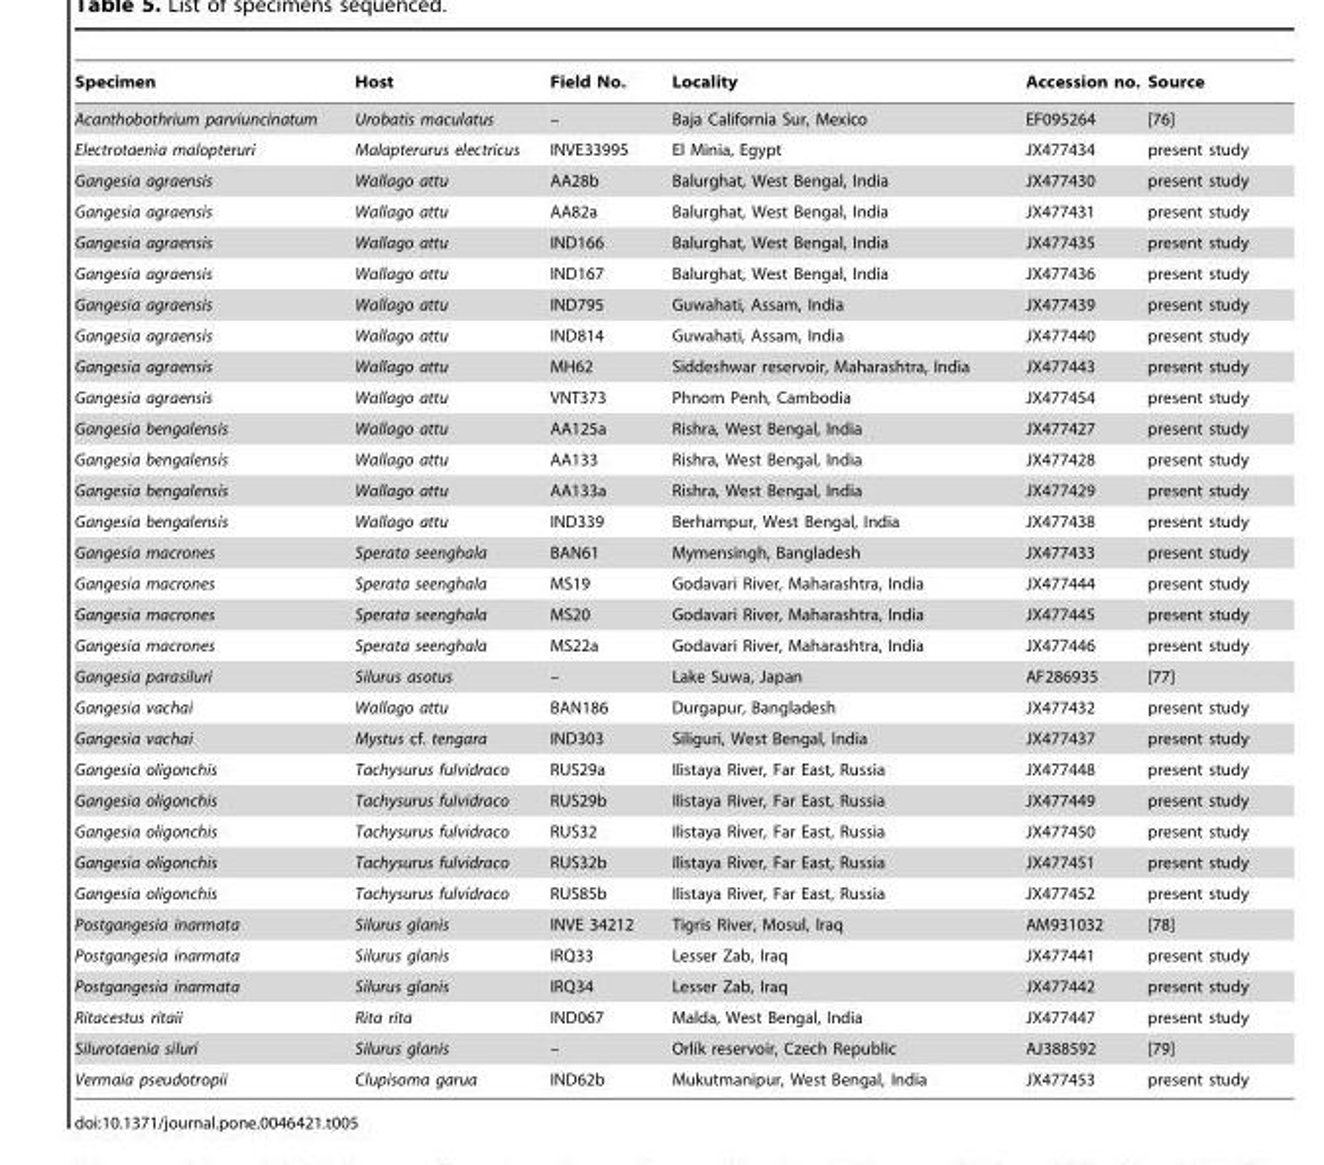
<table><thead><tr><td>Specimen</td><td>Host</td><td>Field No.</td><td>Locality</td><td>Accession no.</td><td>Source</td></tr></thead><tbody><tr><td>Acanthobothrium parviuncinatum</td><td>Urobatis maculatus</td><td>–</td><td>Baja California Sur, Mexico</td><td>EF095264</td><td>[76]</td></tr><tr><td>Electrotaenia malopteruri</td><td>Malapterurus electricus</td><td>INVE33995</td><td>El Minia, Egypt</td><td>JX477434</td><td>present study</td></tr><tr><td>Gangesia agraensis</td><td>Wallago attu</td><td>AA28b</td><td>Balurghat, West Bengal, India</td><td>JX477430</td><td>present study</td></tr><tr><td>Gangesia agraensis</td><td>Wallago attu</td><td>AA82a</td><td>Balurghat, West Bengal, India</td><td>JX477431</td><td>present study</td></tr><tr><td>Gangesia agraensis</td><td>Wallago attu</td><td>IND166</td><td>Balurghat, West Bengal, India</td><td>JX477435</td><td>present study</td></tr><tr><td>Gangesia agraensis</td><td>Wallago attu</td><td>IND167</td><td>Balurghat, West Bengal, India</td><td>JX477436</td><td>present study</td></tr><tr><td>Gangesia agraensis</td><td>Wallago attu</td><td>IND795</td><td>Guwahati, Assam, India</td><td>JX477439</td><td>present study</td></tr><tr><td>Gangesia agraensis</td><td>Wallago attu</td><td>IND814</td><td>Guwahati, Assam, India</td><td>JX477440</td><td>present study</td></tr><tr><td>Gangesia agraensis</td><td>Wallago attu</td><td>MH62</td><td>Siddeshwar reservoir, Maharashtra, India</td><td>JX477443</td><td>present study</td></tr><tr><td>Gangesia agraensis</td><td>Wallago attu</td><td>VNT373</td><td>Phnom Penh, Cambodia</td><td>JX477454</td><td>present study</td></tr><tr><td>Gangesia bengalensis</td><td>Wallago attu</td><td>AA125a</td><td>Rishra, West Bengal, India</td><td>JX477427</td><td>present study</td></tr><tr><td>Gangesia bengalensis</td><td>Wallago attu</td><td>AA133</td><td>Rishra, West Bengal, India</td><td>JX477428</td><td>present study</td></tr><tr><td>Gangesia bengalensis</td><td>Wallago attu</td><td>AA133a</td><td>Rishra, West Bengal, India</td><td>JX477429</td><td>present study</td></tr><tr><td>Gangesia bengalensis</td><td>Wallago attu</td><td>IND339</td><td>Berhampur, West Bengal, India</td><td>JX477438</td><td>present study</td></tr><tr><td>Gangesia macrones</td><td>Sperata seenghala</td><td>BAN61</td><td>Mymensingh, Bangladesh</td><td>JX477433</td><td>present study</td></tr><tr><td>Gangesia macrones</td><td>Sperata seenghala</td><td>MS19</td><td>Godavari River, Maharashtra, India</td><td>JX477444</td><td>present study</td></tr><tr><td>Gangesia macrones</td><td>Sperata seenghala</td><td>MS20</td><td>Godavari River, Maharashtra, India</td><td>JX477445</td><td>present study</td></tr><tr><td>Gangesia macrones</td><td>Sperata seenghala</td><td>MS22a</td><td>Godavari River, Maharashtra, India</td><td>JX477446</td><td>present study</td></tr><tr><td>Gangesia parasiluri</td><td>Silurus asotus</td><td>–</td><td>Lake Suwa, Japan</td><td>AF286935</td><td>[77]</td></tr><tr><td>Gangesia vachai</td><td>Wallago attu</td><td>BAN186</td><td>Durgapur, Bangladesh</td><td>JX477432</td><td>present study</td></tr><tr><td>Gangesia vachai</td><td>Mystus cf. tengara</td><td>IND303</td><td>Siliguri, West Bengal, India</td><td>JX477437</td><td>present study</td></tr><tr><td>Gangesia oligonchis</td><td>Tachysurus fulvidraco</td><td>RUS29a</td><td>Ilistaya River, Far East, Russia</td><td>JX477448</td><td>present study</td></tr><tr><td>Gangesia oligonchis</td><td>Tachysurus fulvidraco</td><td>RUS29b</td><td>Ilistaya River, Far East, Russia</td><td>JX477449</td><td>present study</td></tr><tr><td>Gangesia oligonchis</td><td>Tachysurus fulvidraco</td><td>RUS32</td><td>Ilistaya River, Far East, Russia</td><td>JX477450</td><td>present study</td></tr><tr><td>Gangesia oligonchis</td><td>Tachysurus fulvidraco</td><td>RUS32b</td><td>Ilistaya River, Far East, Russia</td><td>JX477451</td><td>present study</td></tr><tr><td>Gangesia oligonchis</td><td>Tachysurus fulvidraco</td><td>RUS85b</td><td>Ilistaya River, Far East, Russia</td><td>JX477452</td><td>present study</td></tr><tr><td>Postgangesia inarmata</td><td>Silurus glanis</td><td>INVE 34212</td><td>Tigris River, Mosul, Iraq</td><td>AM931032</td><td>[78]</td></tr><tr><td>Postgangesia inarmata</td><td>Silurus glanis</td><td>IRQ33</td><td>Lesser Zab, Iraq</td><td>JX477441</td><td>present study</td></tr><tr><td>Postgangesia inarmata</td><td>Silurus glanis</td><td>IRQ34</td><td>Lesser Zab, Iraq</td><td>JX477442</td><td>present study</td></tr><tr><td>Ritacestus ritaii</td><td>Rita rita</td><td>IND067</td><td>Malda, West Bengal, India</td><td>JX477447</td><td>present study</td></tr><tr><td>Silurotaenia siluri</td><td>Silurus glanis</td><td>–</td><td>Orlı´k reservoir, Czech Republic</td><td>AJ388592</td><td>[79]</td></tr><tr><td>Vermaia pseudotropii</td><td>Clupisoma garua</td><td>IND62b</td><td>Mukutmanipur, West Bengal, India</td><td>JX477453</td><td>present study</td></tr></tbody></table>